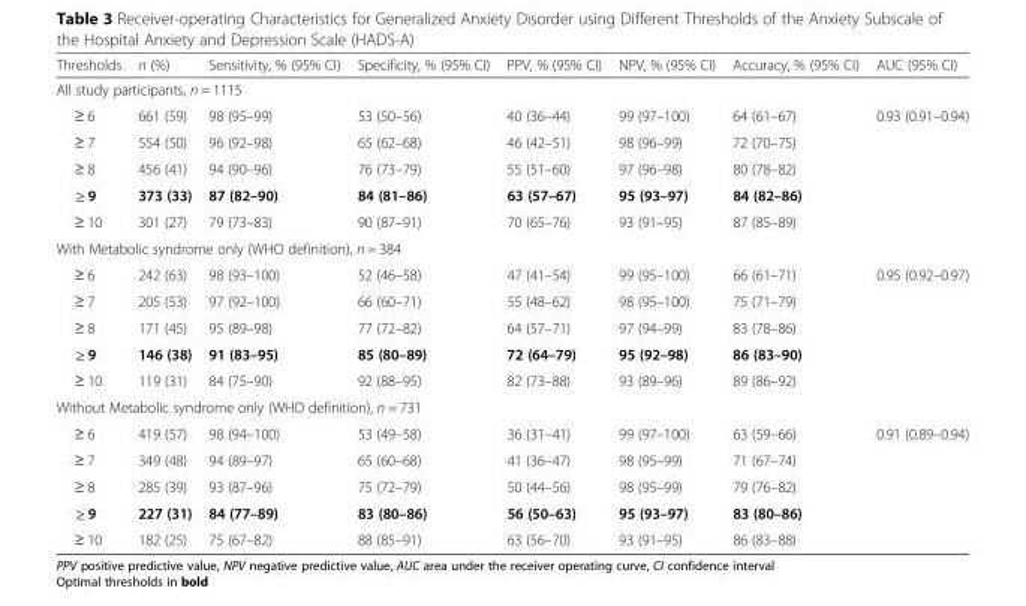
<table><thead><tr><td>Thresholds</td><td>n (%)</td><td>Sensitivity, % (95% CI)</td><td>Specificity, % (95% CI)</td><td>PPV, % (95% CI)</td><td>NPV, % (95% CI)</td><td>Accuracy, % (95% CI)</td><td>AUC (95% CI)</td></tr></thead><tbody><tr><td colspan="8">All study participants, n = 1115</td></tr><tr><td>≥ 6</td><td>661 (59)</td><td>98 (95–99)</td><td>53 (50–56)</td><td>40 (36–44)</td><td>99 (97–100)</td><td>64 (61–67)</td><td>0.93 (0.91–0.94)</td></tr><tr><td>≥ 7</td><td>554 (50)</td><td>96 (92–98)</td><td>65 (62–68)</td><td>46 (42–51)</td><td>98 (96–99)</td><td>72 (70–75)</td><td></td></tr><tr><td>≥ 8</td><td>456 (41)</td><td>94 (90–96)</td><td>76 (73–79)</td><td>55 (51–60)</td><td>97 (96–98)</td><td>80 (78–82)</td><td></td></tr><tr><td>≥ 9</td><td>373 (33)</td><td>87 (82–90)</td><td>84 (81–86)</td><td>63 (57–67)</td><td>95 (93–97)</td><td>84 (82–86)</td><td></td></tr><tr><td>≥ 10</td><td>301 (27)</td><td>79 (73–83)</td><td>90 (87–91)</td><td>70 (65–76)</td><td>93 (91–95)</td><td>87 (85–89)</td><td></td></tr><tr><td colspan="8">With Metabolic syndrome only (WHO definition), n = 384</td></tr><tr><td>≥ 6</td><td>242 (63)</td><td>98 (93–100)</td><td>52 (46–58)</td><td>47 (41–54)</td><td>99 (95–100)</td><td>66 (61–71)</td><td>0.95 (0.92–0.97)</td></tr><tr><td>≥ 7</td><td>205 (53)</td><td>97 (92–100)</td><td>66 (60–71)</td><td>55 (48–62)</td><td>98 (95–100)</td><td>75 (71–79)</td><td></td></tr><tr><td>≥ 8</td><td>171 (45)</td><td>95 (89–98)</td><td>77 (72–82)</td><td>64 (57–71)</td><td>97 (94–99)</td><td>83 (78–86)</td><td></td></tr><tr><td>≥ 9</td><td>146 (38)</td><td>91 (83–95)</td><td>85 (80–89)</td><td>72 (64–79)</td><td>95 (92–98)</td><td>86 (83–90)</td><td></td></tr><tr><td>≥ 10</td><td>119 (31)</td><td>84 (75–90)</td><td>92 (88–95)</td><td>82 (73–88)</td><td>93 (89–96)</td><td>89 (86–92)</td><td></td></tr><tr><td colspan="8">Without Metabolic syndrome only (WHO definition), n = 731</td></tr><tr><td>≥ 6</td><td>419 (57)</td><td>98 (94–100)</td><td>53 (49–58)</td><td>36 (31–41)</td><td>99 (97–100)</td><td>63 (59–66)</td><td>0.91 (0.89–0.94)</td></tr><tr><td>≥ 7</td><td>349 (48)</td><td>94 (89–97)</td><td>65 (60–68)</td><td>41 (36–47)</td><td>98 (95–99)</td><td>71 (67–74)</td><td></td></tr><tr><td>≥ 8</td><td>285 (39)</td><td>93 (87–96)</td><td>75 (72–79)</td><td>50 (44–56)</td><td>98 (95–99)</td><td>79 (76–82)</td><td></td></tr><tr><td>≥ 9</td><td>227 (31)</td><td>84 (77–89)</td><td>83 (80–86)</td><td>56 (50–63)</td><td>95 (93–97)</td><td>83 (80–86)</td><td></td></tr><tr><td>≥ 10</td><td>182 (25)</td><td>75 (67–82)</td><td>88 (85–91)</td><td>63 (56–70)</td><td>93 (91–95)</td><td>86 (83–88)</td><td></td></tr></tbody></table>